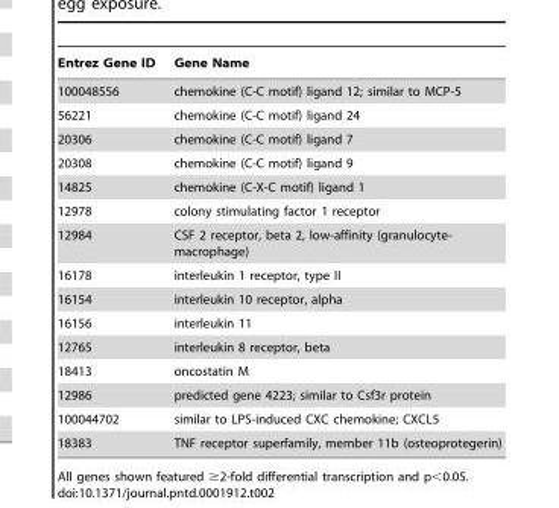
<table><thead><tr><td>Entrez Gene ID</td><td>Gene Name</td></tr></thead><tbody><tr><td>100048556</td><td>chemokine (C-C motif) ligand 12; similar to MCP-5</td></tr><tr><td>56221</td><td>chemokine (C-C motif) ligand 24</td></tr><tr><td>20306</td><td>chemokine (C-C motif) ligand 7</td></tr><tr><td>20308</td><td>chemokine (C-C motif) ligand 9</td></tr><tr><td>14825</td><td>chemokine (C-X-C motif) ligand 1</td></tr><tr><td>12978</td><td>colony stimulating factor 1 receptor</td></tr><tr><td>12984</td><td>CSF 2 receptor, beta 2, low-affinity (granulocyte- macrophage)</td></tr><tr><td>16178</td><td>interleukin 1 receptor, type II</td></tr><tr><td>16154</td><td>interleukin 10 receptor, alpha</td></tr><tr><td>16156</td><td>interleukin 11</td></tr><tr><td>12765</td><td>interleukin 8 receptor, beta</td></tr><tr><td>18413</td><td>oncostatin M</td></tr><tr><td>12986</td><td>predicted gene 4223; similar to Csf3r protein</td></tr><tr><td>100044702</td><td>similar to LPS-induced CXC chemokine; CXCL5</td></tr><tr><td>18383</td><td>TNF receptor superfamily, member 11b (osteoprotegerin)</td></tr></tbody></table>